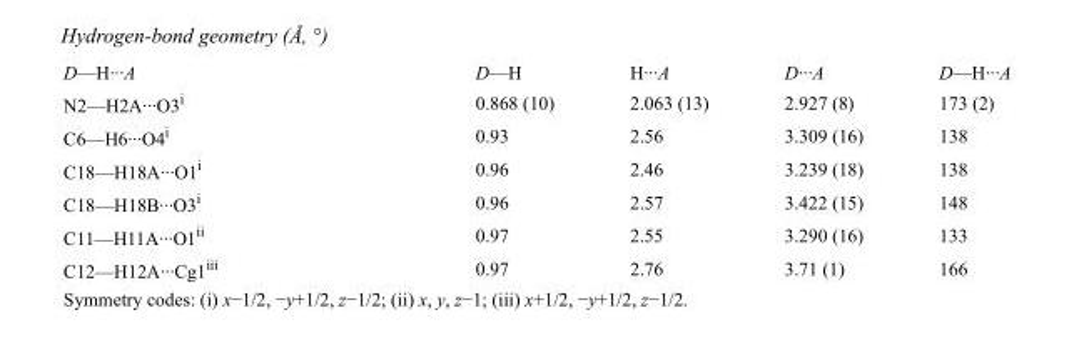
<table><tbody><tr><td>D—H···A</td><td>D—H</td><td>H···A</td><td>D···A</td><td>D—H···A</td></tr><tr><td>N2—H2A···O3<sup>i</sup></td><td>0.868 (10)</td><td>2.063 (13)</td><td>2.927 (8)</td><td>173 (2)</td></tr><tr><td>C6—H6···O4<sup>i</sup></td><td>0.93</td><td>2.56</td><td>3.309 (16)</td><td>138</td></tr><tr><td>C18—H18A···O1<sup>i</sup></td><td>0.96</td><td>2.46</td><td>3.239 (18)</td><td>138</td></tr><tr><td>C18—H18B···O3<sup>i</sup></td><td>0.96</td><td>2.57</td><td>3.422 (15)</td><td>148</td></tr><tr><td>C11—H11A···O1<sup>ii</sup></td><td>0.97</td><td>2.55</td><td>3.290 (16)</td><td>133</td></tr><tr><td>C12—H12A···Cg1<sup>iii</sup></td><td>0.97</td><td>2.76</td><td>3.71 (1)</td><td>166</td></tr></tbody></table>